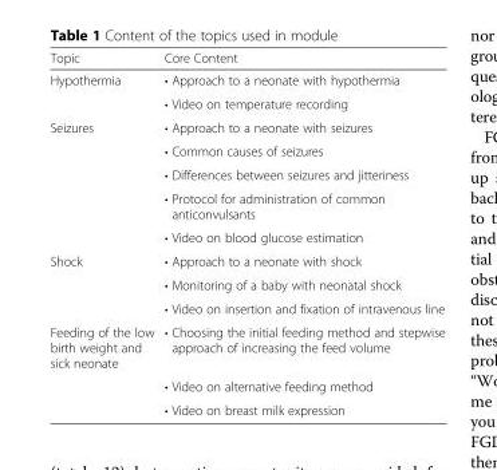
<table><thead><tr><td>Topic</td><td>Core Content</td></tr></thead><tbody><tr><td rowspan="2">Hypothermia</td><td>• Approach to a neonate with hypothermia</td></tr><tr><td>• Video on temperature recording</td></tr><tr><td rowspan="5">Seizures</td><td>• Approach to a neonate with seizures</td></tr><tr><td>• Common causes of seizures</td></tr><tr><td>• Differences between seizures and jitteriness</td></tr><tr><td>• Protocol for administration of common anticonvulsants</td></tr><tr><td>• Video on blood glucose estimation</td></tr><tr><td rowspan="3">Shock</td><td>• Approach to a neonate with shock</td></tr><tr><td>• Monitoring of a baby with neonatal shock</td></tr><tr><td>• Video on insertion and fixation of intravenous line</td></tr><tr><td rowspan="3">Feeding of the low birth weight and sick neonate</td><td>• Choosing the initial feeding method and stepwise approach of increasing the feed volume</td></tr><tr><td>• Video on alternative feeding method</td></tr><tr><td>• Video on breast milk expression</td></tr></tbody></table>